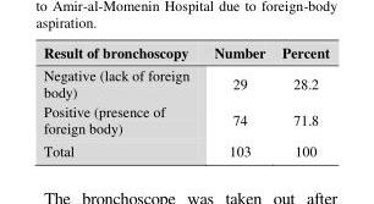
<table><thead><tr><td>Result of bronchoscopy</td><td>Number</td><td>Percent</td></tr></thead><tbody><tr><td>Negative (lack of foreign body)</td><td>29</td><td>28.2</td></tr><tr><td>Positive (presence of foreign body)</td><td>74</td><td>71.8</td></tr><tr><td>Total</td><td>103</td><td>100</td></tr></tbody></table>